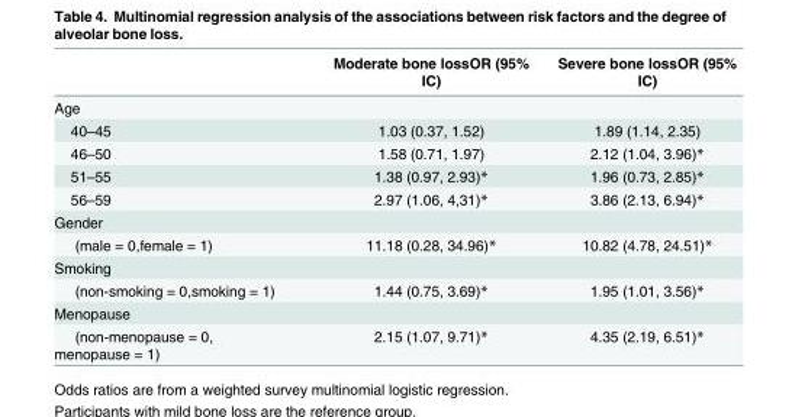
<table><thead><tr><td></td><td>Moderate bone lossOR (95% IC)</td><td>Severe bone lossOR (95% IC)</td></tr></thead><tbody><tr><td colspan="3">Age</td></tr><tr><td>40–45</td><td>1.03 (0.37, 1.52)</td><td>1.89 (1.14, 2.35)</td></tr><tr><td>46–50</td><td>1.58 (0.71, 1.97)</td><td>2.12 (1.04, 3.96)*</td></tr><tr><td>51–55</td><td>1.38 (0.97, 2.93)*</td><td>1.96 (0.73, 2.85)*</td></tr><tr><td>56–59</td><td>2.97 (1.06, 4,31)*</td><td>3.86 (2.13, 6.94)*</td></tr><tr><td colspan="3">Gender</td></tr><tr><td>(male = 0,female = 1)</td><td>11.18 (0.28, 34.96)*</td><td>10.82 (4.78, 24.51)*</td></tr><tr><td colspan="3">Smoking</td></tr><tr><td>(non-smoking = 0,smoking = 1)</td><td>1.44 (0.75, 3.69)*</td><td>1.95 (1.01, 3.56)*</td></tr><tr><td colspan="3">Menopause</td></tr><tr><td>(non-menopause = 0, menopause = 1)</td><td>2.15 (1.07, 9.71)*</td><td>4.35 (2.19, 6.51)*</td></tr></tbody></table>